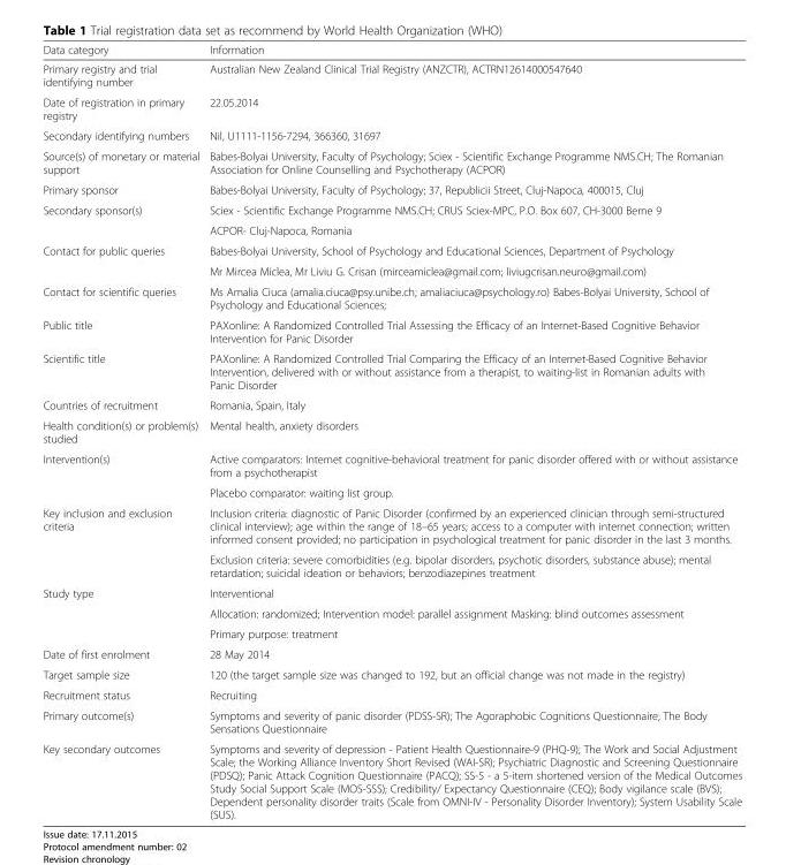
<table><thead><tr><td>Data category</td><td>Information</td></tr></thead><tbody><tr><td>Primary registry and trial identifying number</td><td>Australian New Zealand Clinical Trial Registry (ANZCTR), ACTRN12614000547640</td></tr><tr><td>Date of registration in primary registry</td><td>22.05.2014</td></tr><tr><td>Secondary identifying numbers</td><td>Nil, U1111-1156-7294, 366360, 31697</td></tr><tr><td>Source(s) of monetary or material support</td><td>Babes-Bolyai University, Faculty of Psychology; Sciex - Scientific Exchange Programme NMS.CH; The Romanian Association for Online Counselling and Psychotherapy (ACPOR)</td></tr><tr><td>Primary sponsor</td><td>Babes-Bolyai University, Faculty of Psychology; 37, Republicii Street, Cluj-Napoca, 400015, Cluj</td></tr><tr><td rowspan="2">Secondary sponsor(s)</td><td>Sciex - Scientific Exchange Programme NMS.CH; CRUS Sciex-MPC, P.O. Box 607, CH-3000 Berne 9</td></tr><tr><td>ACPOR- Cluj-Napoca, Romania</td></tr><tr><td rowspan="2">Contact for public queries</td><td>Babes-Bolyai University, School of Psychology and Educational Sciences, Department of Psychology</td></tr><tr><td>Mr Mircea Miclea, Mr Liviu G. Crisan (mirceamiclea@gmail.com; liviugcrisan.neuro@gmail.com)</td></tr><tr><td>Contact for scientific queries</td><td>Ms Amalia Ciuca (amalia.ciuca@psy.unibe.ch; amaliaciuca@psychology.ro) Babes-Bolyai University, School of Psychology and Educational Sciences;</td></tr><tr><td>Public title</td><td>PAXonline: A Randomized Controlled Trial Assessing the Efficacy of an Internet-Based Cognitive Behavior Intervention for Panic Disorder</td></tr><tr><td>Scientific title</td><td>PAXonline: A Randomized Controlled Trial Comparing the Efficacy of an Internet-Based Cognitive Behavior Intervention, delivered with or without assistance from a therapist, to waiting-list in Romanian adults with Panic Disorder</td></tr><tr><td>Countries of recruitment</td><td>Romania, Spain, Italy</td></tr><tr><td>Health condition(s) or problem(s) studied</td><td>Mental health, anxiety disorders</td></tr><tr><td rowspan="2">Intervention(s)</td><td>Active comparators: Internet cognitive-behavioral treatment for panic disorder offered with or without assistance from a psychotherapist</td></tr><tr><td>Placebo comparator: waiting list group.</td></tr><tr><td rowspan="2">Key inclusion and exclusion criteria</td><td>Inclusion criteria: diagnostic of Panic Disorder (confirmed by an experienced clinician through semi-structured clinical interview); age within the range of 18–65 years; access to a computer with internet connection; written informed consent provided; no participation in psychological treatment for panic disorder in the last 3 months.</td></tr><tr><td>Exclusion criteria: severe comorbidities (e.g. bipolar disorders, psychotic disorders, substance abuse); mental retardation; suicidal ideation or behaviors; benzodiazepines treatment</td></tr><tr><td rowspan="3">Study type</td><td>Interventional</td></tr><tr><td>Allocation: randomized; Intervention model: parallel assignment Masking: blind outcomes assessment</td></tr><tr><td>Primary purpose: treatment</td></tr><tr><td>Date of first enrolment</td><td>28 May 2014</td></tr><tr><td>Target sample size</td><td>120 (the target sample size was changed to 192, but an official change was not made in the registry)</td></tr><tr><td>Recruitment status</td><td>Recruiting</td></tr><tr><td>Primary outcome(s)</td><td>Symptoms and severity of panic disorder (PDSS-SR); The Agoraphobic Cognitions Questionnaire; The Body Sensations Questionnaire</td></tr><tr><td>Key secondary outcomes</td><td>Symptoms and severity of depression - Patient Health Questionnaire-9 (PHQ-9); The Work and Social Adjustment Scale; the Working Alliance Inventory Short Revised (WAI-SR); Psychiatric Diagnostic and Screening Questionnaire (PDSQ); Panic Attack Cognition Questionnaire (PACQ); SS-5 - a 5-item shortened version of the Medical Outcomes Study Social Support Scale (MOS-SSS); Credibility/ Expectancy Questionnaire (CEQ); Body vigilance scale (BVS); Dependent personality disorder traits (Scale from OMNI-IV - Personality Disorder Inventory); System Usability Scale (SUS).</td></tr></tbody></table>